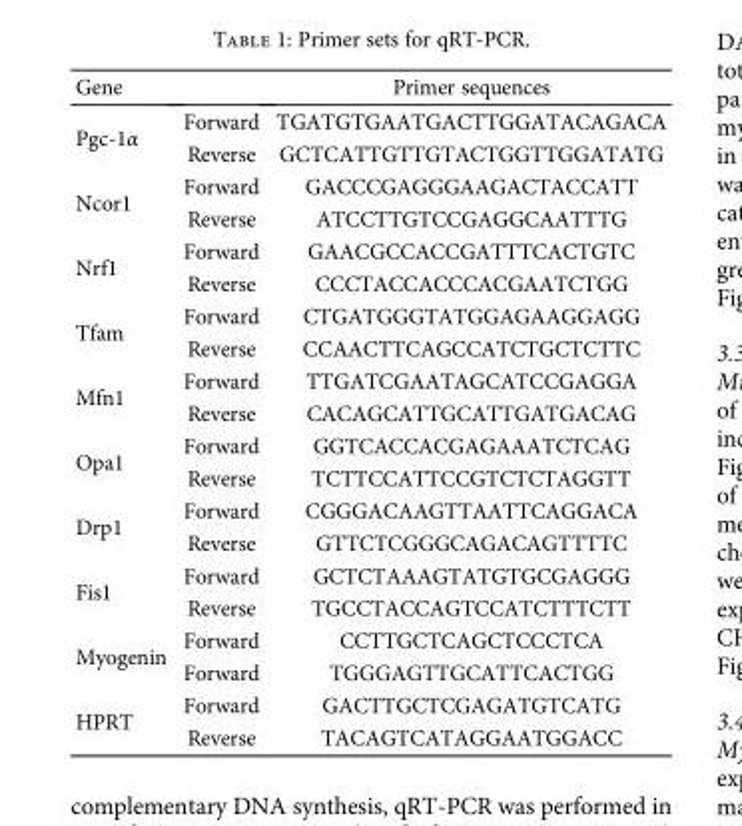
<table><thead><tr><td>Gene</td><td></td><td>Primer sequences</td></tr></thead><tbody><tr><td rowspan="2">Pgc-1α</td><td>Forward</td><td>TGATGTGAATGACTTGGATACAGACA</td></tr><tr><td>Reverse</td><td>GCTCATTGTTGTACTGGTTGGATATG</td></tr><tr><td rowspan="2">Ncor1</td><td>Forward</td><td>GACCCGAGGGAAGACTACCATT</td></tr><tr><td>Reverse</td><td>ATCCTTGTCCGAGGCAATTTG</td></tr><tr><td rowspan="2">Nrf1</td><td>Forward</td><td>GAACGCCACCGATTTCACTGTC</td></tr><tr><td>Reverse</td><td>CCCTACCACCCACGAATCTGG</td></tr><tr><td rowspan="2">Tfam</td><td>Forward</td><td>CTGATGGGTATGGAGAAGGAGG</td></tr><tr><td>Reverse</td><td>CCAACTTCAGCCATCTGCTCTTC</td></tr><tr><td rowspan="2">Mfn1</td><td>Forward</td><td>TTGATCGAATAGCATCCGAGGA</td></tr><tr><td>Reverse</td><td>CACAGCATTGCATTGATGACAG</td></tr><tr><td rowspan="2">Opa1</td><td>Forward</td><td>GGTCACCACGAGAAATCTCAG</td></tr><tr><td>Reverse</td><td>TCTTCCATTCCGTCTCTAGGTT</td></tr><tr><td rowspan="2">Drp1</td><td>Forward</td><td>CGGGACAAGTTAATTCAGGACA</td></tr><tr><td>Reverse</td><td>GTTCTCGGGCAGACAGTTTTC</td></tr><tr><td rowspan="2">Fis1</td><td>Forward</td><td>GCTCTAAAGTATGTGCGAGGG</td></tr><tr><td>Reverse</td><td>TGCCTACCAGTCCATCTTTCTT</td></tr><tr><td rowspan="2">Myogenin</td><td>Forward</td><td>CCTTGCTCAGCTCCCTCA</td></tr><tr><td>Forward</td><td>TGGGAGTTGCATTCACTGG</td></tr><tr><td rowspan="2">HPRT</td><td>Forward</td><td>GACTTGCTCGAGATGTCATG</td></tr><tr><td>Reverse</td><td>TACAGTCATAGGAATGGACC</td></tr></tbody></table>